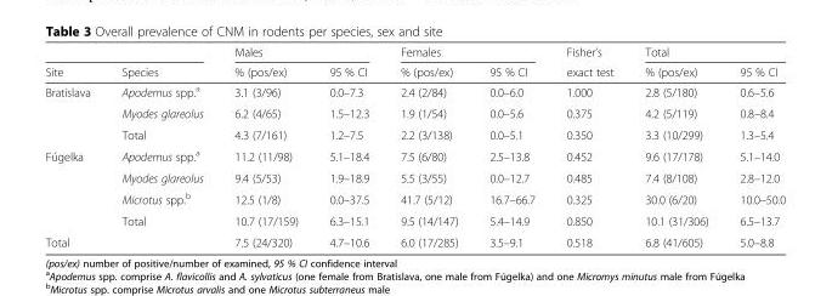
<table><thead><tr><td rowspan="2">Site</td><td rowspan="2">Species</td><td colspan="2">Males</td><td colspan="2">Females</td><td rowspan="2">Fisher’s exact test</td><td colspan="2">Total</td></tr><tr><td>% (pos/ex)</td><td>95 % CI</td><td>% (pos/ex)</td><td>95 % CI</td><td>% (pos/ex)</td><td>95 % CI</td></tr></thead><tbody><tr><td rowspan="3">Bratislava</td><td>Apodemus spp.<sup>a</sup></td><td>3.1 (3/96)</td><td>0.0–7.3</td><td>2.4 (2/84)</td><td>0.0–6.0</td><td>1.000</td><td>2.8 (5/180)</td><td>0.6–5.6</td></tr><tr><td>Myodes glareolus</td><td>6.2 (4/65)</td><td>1.5–12.3</td><td>1.9 (1/54)</td><td>0.0–5.6</td><td>0.375</td><td>4.2 (5/119)</td><td>0.8–8.4</td></tr><tr><td>Total</td><td>4.3 (7/161)</td><td>1.2–7.5</td><td>2.2 (3/138)</td><td>0.0–5.1</td><td>0.350</td><td>3.3 (10/299)</td><td>1.3–5.4</td></tr><tr><td rowspan="4">Fúgelka</td><td>Apodemus spp.<sup>a</sup></td><td>11.2 (11/98)</td><td>5.1–18.4</td><td>7.5 (6/80)</td><td>2.5–13.8</td><td>0.452</td><td>9.6 (17/178)</td><td>5.1–14.0</td></tr><tr><td>Myodes glareolus</td><td>9.4 (5/53)</td><td>1.9–18.9</td><td>5.5 (3/55)</td><td>0.0–12.7</td><td>0.485</td><td>7.4 (8/108)</td><td>2.8–12.0</td></tr><tr><td>Microtus spp.<sup>b</sup></td><td>12.5 (1/8)</td><td>0.0–37.5</td><td>41.7 (5/12)</td><td>16.7–66.7</td><td>0.325</td><td>30.0 (6/20)</td><td>10.0–50.0</td></tr><tr><td>Total</td><td>10.7 (17/159)</td><td>6.3–15.1</td><td>9.5 (14/147)</td><td>5.4–14.9</td><td>0.850</td><td>10.1 (31/306)</td><td>6.5–13.7</td></tr><tr><td>Total</td><td></td><td>7.5 (24/320)</td><td>4.7–10.6</td><td>6.0 (17/285)</td><td>3.5–9.1</td><td>0.518</td><td>6.8 (41/605)</td><td>5.0–8.8</td></tr></tbody></table>